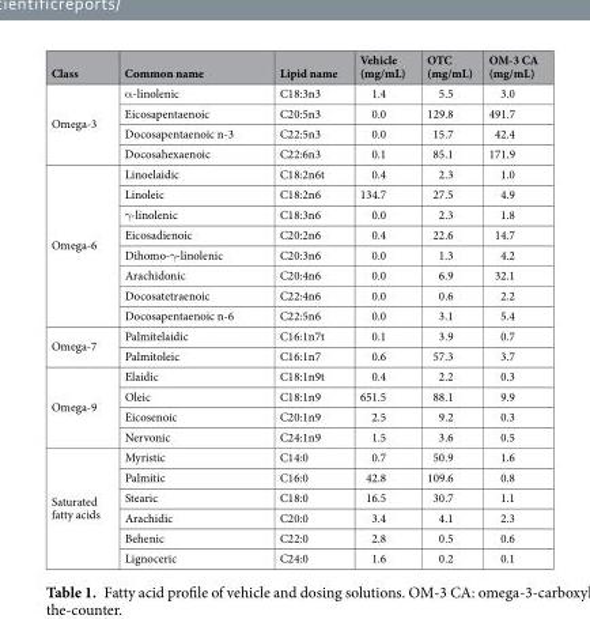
<table><thead><tr><td>Class</td><td>Common name</td><td>Lipid name</td><td>Vehicle (mg/mL)</td><td>OTC (mg/mL)</td><td>OM-3 CA (mg/mL)</td></tr></thead><tbody><tr><td rowspan="4">Omega-3</td><td>α-linolenic</td><td>C18:3n3</td><td>1.4</td><td>5.5</td><td>3.0</td></tr><tr><td>Eicosapentaenoic</td><td>C20:5n3</td><td>0.0</td><td>129.8</td><td>491.7</td></tr><tr><td>Docosapentaenoic n-3</td><td>C22:5n3</td><td>0.0</td><td>15.7</td><td>42.4</td></tr><tr><td>Docosahexaenoic</td><td>C22:6n3</td><td>0.1</td><td>85.1</td><td>171.9</td></tr><tr><td rowspan="8">Omega-6</td><td>Linoelaidic</td><td>C18:2n6t</td><td>0.4</td><td>2.3</td><td>1.0</td></tr><tr><td>Linoleic</td><td>C18:2n6</td><td>134.7</td><td>27.5</td><td>4.9</td></tr><tr><td>γ-linolenic</td><td>C18:3n6</td><td>0.0</td><td>2.3</td><td>1.8</td></tr><tr><td>Eicosadienoic</td><td>C20:2n6</td><td>0.4</td><td>22.6</td><td>14.7</td></tr><tr><td>Dihomo-γ-linolenic</td><td>C20:3n6</td><td>0.0</td><td>1.3</td><td>4.2</td></tr><tr><td>Arachidonic</td><td>C20:4n6</td><td>0.0</td><td>6.9</td><td>32.1</td></tr><tr><td>Docosatetraenoic</td><td>C22:4n6</td><td>0.0</td><td>0.6</td><td>2.2</td></tr><tr><td>Docosapentaenoic n-6</td><td>C22:5n6</td><td>0.0</td><td>3.1</td><td>5.4</td></tr><tr><td rowspan="2">Omega-7</td><td>Palmitelaidic</td><td>C16:1n7t</td><td>0.1</td><td>3.9</td><td>0.7</td></tr><tr><td>Palmitoleic</td><td>C16:1n7</td><td>0.6</td><td>57.3</td><td>3.7</td></tr><tr><td rowspan="4">Omega-9</td><td>Elaidic</td><td>C18:1n9t</td><td>0.4</td><td>2.2</td><td>0.3</td></tr><tr><td>Oleic</td><td>C18:1n9</td><td>651.5</td><td>88.1</td><td>9.9</td></tr><tr><td>Eicosenoic</td><td>C20:1n9</td><td>2.5</td><td>9.2</td><td>0.3</td></tr><tr><td>Nervonic</td><td>C24:1n9</td><td>1.5</td><td>3.6</td><td>0.5</td></tr><tr><td rowspan="6">Saturated fatty acids</td><td>Myristic</td><td>C14:0</td><td>0.7</td><td>50.9</td><td>1.6</td></tr><tr><td>Palmitic</td><td>C16:0</td><td>42.8</td><td>109.6</td><td>0.8</td></tr><tr><td>Stearic</td><td>C18:0</td><td>16.5</td><td>30.7</td><td>1.1</td></tr><tr><td>Arachidic</td><td>C20:0</td><td>3.4</td><td>4.1</td><td>2.3</td></tr><tr><td>Behenic</td><td>C22:0</td><td>2.8</td><td>0.5</td><td>0.6</td></tr><tr><td>Lignoceric</td><td>C24:0</td><td>1.6</td><td>0.2</td><td>0.1</td></tr></tbody></table>